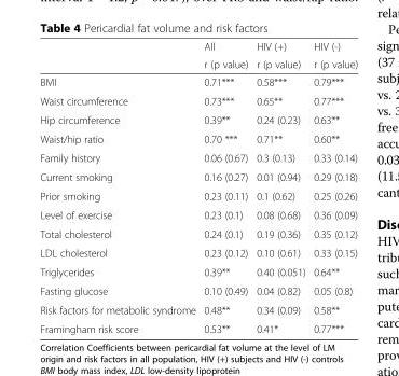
<table><thead><tr><td rowspan="2"></td><td rowspan="2">All r (p value)</td><td rowspan="2">HIV (+) r (p value)</td><td rowspan="2">HIV (-) r (p value)</td></tr><tr></tr></thead><tbody><tr><td>BMI</td><td>0.71***</td><td>0.58***</td><td>0.79***</td></tr><tr><td>Waist circumference</td><td>0.73***</td><td>0.65**</td><td>0.77***</td></tr><tr><td>Hip circumference</td><td>0.39**</td><td>0.24 (0.23)</td><td>0.63**</td></tr><tr><td>Waist/hip ratio</td><td>0.70 ***</td><td>0.71**</td><td>0.60**</td></tr><tr><td>Family history</td><td>0.06 (0.67)</td><td>0.3 (0.13)</td><td>0.33 (0.14)</td></tr><tr><td>Current smoking</td><td>0.16 (0.27)</td><td>0.01 (0.94)</td><td>0.29 (0.18)</td></tr><tr><td>Prior smoking</td><td>0.23 (0.11)</td><td>0.1 (0.62)</td><td>0.25 (0.26)</td></tr><tr><td>Level of exercise</td><td>0.23 (0.1)</td><td>0.08 (0.68)</td><td>0.36 (0.09)</td></tr><tr><td>Total cholesterol</td><td>0.24 (0.1)</td><td>0.19 (0.36)</td><td>0.35 (0.12)</td></tr><tr><td>LDL cholesterol</td><td>0.23 (0.12)</td><td>0.10 (0.61)</td><td>0.33 (0.15)</td></tr><tr><td>Triglycerides</td><td>0.39**</td><td>0.40 (0.051)</td><td>0.64**</td></tr><tr><td>Fasting glucose</td><td>0.10 (0.49)</td><td>0.04 (0.82)</td><td>0.05 (0.8)</td></tr><tr><td>Risk factors for metabolic syndrome</td><td>0.48**</td><td>0.34 (0.09)</td><td>0.58**</td></tr><tr><td>Framingham risk score</td><td>0.53**</td><td>0.41*</td><td>0.77***</td></tr></tbody></table>